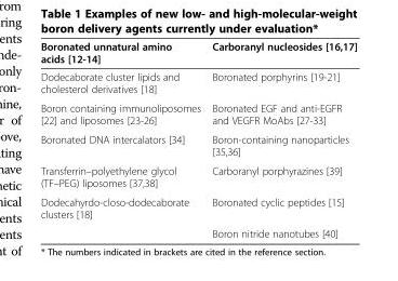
<table><thead><tr><td>Boronated unnatural amino acids [12-14]</td><td>Carboranyl nucleosides [16,17]</td></tr></thead><tbody><tr><td>Dodecaborate cluster lipids and cholesterol derivatives [18]</td><td>Boronated porphyrins [19-21]</td></tr><tr><td>Boron containing immunoliposomes [22] and liposomes [23-26]</td><td>Boronated EGF and anti-EGFR and VEGFR MoAbs [27-33]</td></tr><tr><td>Boronated DNA intercalators [34]</td><td>Boron-containing nanoparticles [35,36]</td></tr><tr><td>Transferrin–polyethylene glycol (TF–PEG) liposomes [37,38]</td><td>Carboranyl porphyrazines [39]</td></tr><tr><td rowspan="2">Dodecahyrdo-closo-dodecaborate clusters [18]</td><td>Boronated cyclic peptides [15]</td></tr><tr><td>Boron nitride nanotubes [40]</td></tr></tbody></table>